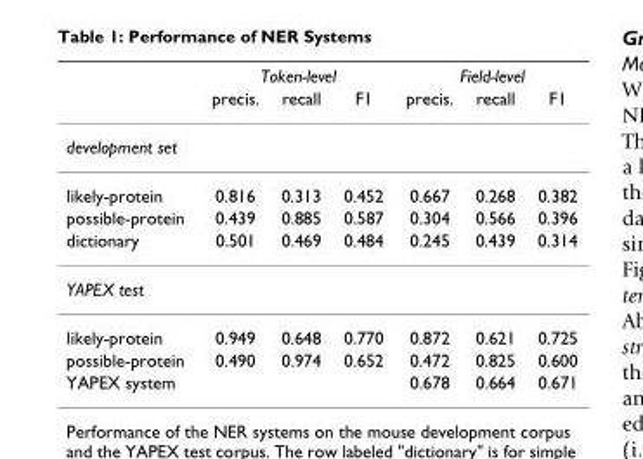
<table><thead><tr><td rowspan="2"></td><td colspan="3">Token-level</td><td colspan="3">Field-level</td></tr><tr><td>precis.</td><td>recall</td><td>F1</td><td>precis.</td><td>recall</td><td>F1</td></tr></thead><tbody><tr><td colspan="7">development set</td></tr><tr><td>likely-protein</td><td>0.816</td><td>0.313</td><td>0.452</td><td>0.667</td><td>0.268</td><td>0.382</td></tr><tr><td>possible-protein</td><td>0.439</td><td>0.885</td><td>0.587</td><td>0.304</td><td>0.566</td><td>0.396</td></tr><tr><td>dictionary</td><td>0.501</td><td>0.469</td><td>0.484</td><td>0.245</td><td>0.439</td><td>0.314</td></tr><tr><td colspan="7">YAPEX test</td></tr><tr><td>likely-protein</td><td>0.949</td><td>0.648</td><td>0.770</td><td>0.872</td><td>0.621</td><td>0.725</td></tr><tr><td>possible-protein</td><td>0.490</td><td>0.974</td><td>0.652</td><td>0.472</td><td>0.825</td><td>0.600</td></tr><tr><td>YAPEX system</td><td></td><td></td><td></td><td>0.678</td><td>0.664</td><td>0.671</td></tr></tbody></table>